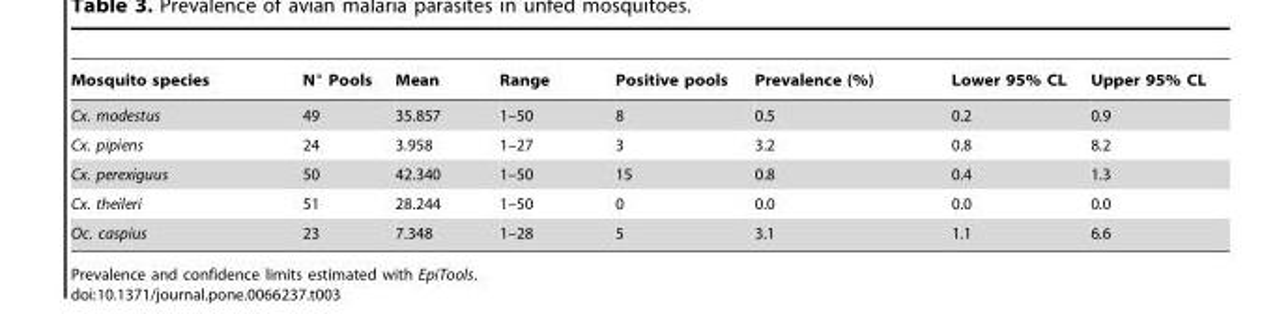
<table><thead><tr><td>Mosquito species</td><td>N° Pools</td><td>Mean</td><td>Range</td><td>Positive pools</td><td>Prevalence (%)</td><td>Lower 95% CL</td><td>Upper 95% CL</td></tr></thead><tbody><tr><td>Cx. modestus</td><td>49</td><td>35.857</td><td>1–50</td><td>8</td><td>0.5</td><td>0.2</td><td>0.9</td></tr><tr><td>Cx. pipiens</td><td>24</td><td>3.958</td><td>1–27</td><td>3</td><td>3.2</td><td>0.8</td><td>8.2</td></tr><tr><td>Cx. perexiguus</td><td>50</td><td>42.340</td><td>1–50</td><td>15</td><td>0.8</td><td>0.4</td><td>1.3</td></tr><tr><td>Cx. theileri</td><td>51</td><td>28.244</td><td>1–50</td><td>0</td><td>0.0</td><td>0.0</td><td>0.0</td></tr><tr><td>Oc. caspius</td><td>23</td><td>7.348</td><td>1–28</td><td>5</td><td>3.1</td><td>1.1</td><td>6.6</td></tr></tbody></table>